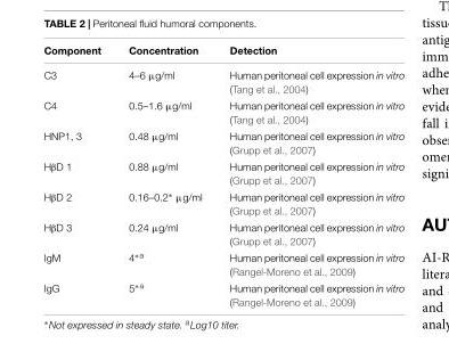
<table><thead><tr><td>Component</td><td>Concentration</td><td>Detection</td></tr></thead><tbody><tr><td>C3</td><td>4–6 µg/ml</td><td>Human peritoneal cell expression in vitro (Tang et al., 2004)</td></tr><tr><td>C4</td><td>0.5–1.6 µg/ml</td><td>Human peritoneal cell expression in vitro (Tang et al., 2004)</td></tr><tr><td>HNP1, 3</td><td>0.48 µg/ml</td><td>Human peritoneal cell expression in vitro (Grupp et al., 2007)</td></tr><tr><td>HβD 1</td><td>0.88 µg/ml</td><td>Human peritoneal cell expression in vitro (Grupp et al., 2007)</td></tr><tr><td>HβD 2</td><td>0.16–0.2∗ µg/ml</td><td>Human peritoneal cell expression in vitro (Grupp et al., 2007)</td></tr><tr><td>HβD 3</td><td>0.24 µg/ml</td><td>Human peritoneal cell expression in vitro (Grupp et al., 2007)</td></tr><tr><td>IgM</td><td>4<sup>∗a</sup></td><td>Human peritoneal cell expression in vitro (Rangel-Moreno et al., 2009)</td></tr><tr><td>IgG</td><td>5<sup>∗a</sup></td><td>Human peritoneal cell expression in vitro (Rangel-Moreno et al., 2009)</td></tr></tbody></table>